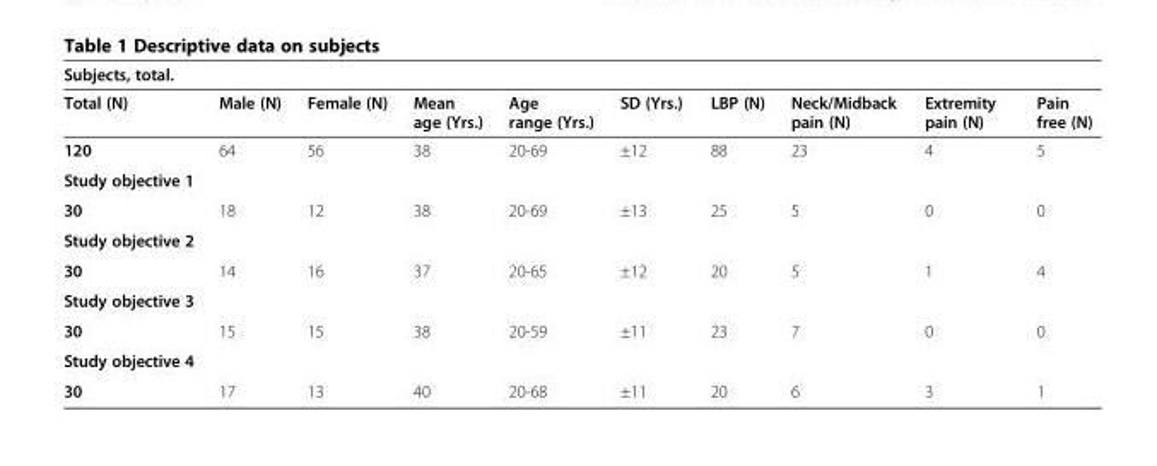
<table><thead><tr><td colspan="10">Subjects, total.</td></tr><tr><td>Total (N)</td><td>Male (N)</td><td>Female (N)</td><td>Mean age (Yrs.)</td><td>Age range (Yrs.)</td><td>SD (Yrs.)</td><td>LBP (N)</td><td>Neck/Midback pain (N)</td><td>Extremity pain (N)</td><td>Pain free (N)</td></tr></thead><tbody><tr><td>120</td><td>64</td><td>56</td><td>38</td><td>20-69</td><td>±12</td><td>88</td><td>23</td><td>4</td><td>5</td></tr><tr><td colspan="10">Study objective 1</td></tr><tr><td>30</td><td>18</td><td>12</td><td>38</td><td>20-69</td><td>±13</td><td>25</td><td>5</td><td>0</td><td>0</td></tr><tr><td colspan="10">Study objective 2</td></tr><tr><td>30</td><td>14</td><td>16</td><td>37</td><td>20-65</td><td>±12</td><td>20</td><td>5</td><td>1</td><td>4</td></tr><tr><td colspan="10">Study objective 3</td></tr><tr><td>30</td><td>15</td><td>15</td><td>38</td><td>20-59</td><td>±11</td><td>23</td><td>7</td><td>0</td><td>0</td></tr><tr><td colspan="10">Study objective 4</td></tr><tr><td>30</td><td>17</td><td>13</td><td>40</td><td>20-68</td><td>±11</td><td>20</td><td>6</td><td>3</td><td>1</td></tr></tbody></table>